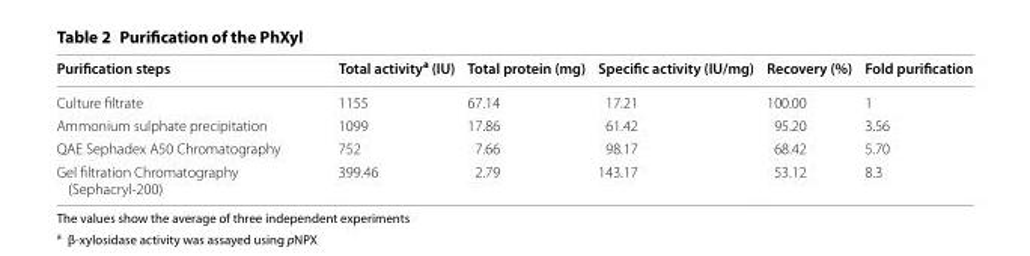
<table><thead><tr><td>Purification steps</td><td>Total activity<sup>a</sup> (IU)</td><td>Total protein (mg)</td><td>Specific activity (IU/mg)</td><td>Recovery (%)</td><td>Fold purification</td></tr></thead><tbody><tr><td>Culture filtrate</td><td>1155</td><td>67.14</td><td>17.21</td><td>100.00</td><td>1</td></tr><tr><td>Ammonium sulphate precipitation</td><td>1099</td><td>17.86</td><td>61.42</td><td>95.20</td><td>3.56</td></tr><tr><td>QAE Sephadex A50 Chromatography</td><td>752</td><td>7.66</td><td>98.17</td><td>68.42</td><td>5.70</td></tr><tr><td>Gel filtration Chromatography (Sephacryl-200)</td><td>399.46</td><td>2.79</td><td>143.17</td><td>53.12</td><td>8.3</td></tr></tbody></table>